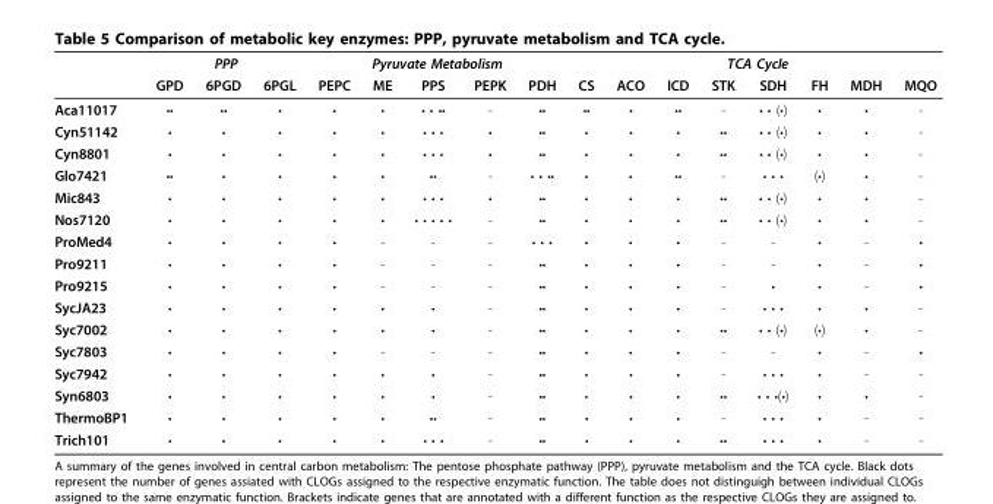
<table><thead><tr><td rowspan="2"></td><td colspan="3">PPP</td><td colspan="5">Pyruvate Metabolism</td><td colspan="8">TCA Cycle</td></tr><tr><td>GPD</td><td>6PGD</td><td>6PGL</td><td>PEPC</td><td>ME</td><td>PPS</td><td>PEPK</td><td>PDH</td><td>CS</td><td>ACO</td><td>ICD</td><td>STK</td><td>SDH</td><td>FH</td><td>MDH</td><td>MQO</td></tr></thead><tbody><tr><td>Aca11017</td><td>••</td><td>••</td><td>•</td><td>•</td><td>•</td><td>• • ••</td><td>-</td><td>••</td><td>••</td><td>•</td><td>••</td><td>-</td><td>• • (•)</td><td>•</td><td>•</td><td>-</td></tr><tr><td>Cyn51142</td><td>•</td><td>•</td><td>•</td><td>•</td><td>•</td><td>• • •</td><td>•</td><td>••</td><td>•</td><td>•</td><td>•</td><td>••</td><td>• • (•)</td><td>•</td><td>•</td><td>-</td></tr><tr><td>Cyn8801</td><td>•</td><td>•</td><td>•</td><td>•</td><td>•</td><td>• • •</td><td>•</td><td>••</td><td>•</td><td>•</td><td>•</td><td>••</td><td>• • (•)</td><td>•</td><td>•</td><td>-</td></tr><tr><td>Glo7421</td><td>••</td><td>•</td><td>•</td><td>•</td><td>•</td><td>••</td><td>-</td><td>• • ••</td><td>•</td><td>•</td><td>••</td><td>-</td><td>• • •</td><td>(•)</td><td>•</td><td>-</td></tr><tr><td>Mic843</td><td>•</td><td>•</td><td>•</td><td>•</td><td>•</td><td>• • •</td><td>•</td><td>••</td><td>•</td><td>•</td><td>•</td><td>••</td><td>• • (•)</td><td>•</td><td>•</td><td>-</td></tr><tr><td>Nos7120</td><td>•</td><td>•</td><td>•</td><td>•</td><td>•</td><td>• • • • •</td><td>-</td><td>••</td><td>•</td><td>•</td><td>•</td><td>••</td><td>• • (•)</td><td>•</td><td>•</td><td>-</td></tr><tr><td>ProMed4</td><td>•</td><td>•</td><td>•</td><td>•</td><td>-</td><td>-</td><td>-</td><td>• • •</td><td>•</td><td>•</td><td>•</td><td>-</td><td>-</td><td>•</td><td>-</td><td>•</td></tr><tr><td>Pro9211</td><td>•</td><td>•</td><td>•</td><td>•</td><td>-</td><td>-</td><td>-</td><td>••</td><td>•</td><td>•</td><td>•</td><td>-</td><td>-</td><td>•</td><td>-</td><td>•</td></tr><tr><td>Pro9215</td><td>•</td><td>•</td><td>•</td><td>•</td><td>-</td><td>-</td><td>-</td><td>••</td><td>•</td><td>•</td><td>•</td><td>-</td><td>•</td><td>•</td><td>-</td><td>•</td></tr><tr><td>SycJA23</td><td>•</td><td>•</td><td>•</td><td>•</td><td>•</td><td>•</td><td>-</td><td>••</td><td>•</td><td>•</td><td>•</td><td>-</td><td>• • •</td><td>•</td><td>•</td><td>-</td></tr><tr><td>Syc7002</td><td>•</td><td>•</td><td>•</td><td>•</td><td>•</td><td>•</td><td>-</td><td>••</td><td>•</td><td>•</td><td>•</td><td>••</td><td>• • (•)</td><td>(•)</td><td>•</td><td>-</td></tr><tr><td>Syc7803</td><td>•</td><td>•</td><td>•</td><td>•</td><td>-</td><td>-</td><td>-</td><td>••</td><td>•</td><td>•</td><td>•</td><td>-</td><td>-</td><td>•</td><td>-</td><td>•</td></tr><tr><td>Syc7942</td><td>•</td><td>•</td><td>•</td><td>•</td><td>•</td><td>•</td><td>-</td><td>••</td><td>•</td><td>•</td><td>•</td><td>-</td><td>• • •</td><td>•</td><td>-</td><td>-</td></tr><tr><td>Syn6803</td><td>•</td><td>•</td><td>•</td><td>•</td><td>•</td><td>•</td><td>-</td><td>••</td><td>•</td><td>•</td><td>•</td><td>••</td><td>• • •(•)</td><td>•</td><td>•</td><td>-</td></tr><tr><td>ThermoBP1</td><td>•</td><td>•</td><td>•</td><td>•</td><td>•</td><td>••</td><td>-</td><td>••</td><td>•</td><td>•</td><td>•</td><td>-</td><td>• • •</td><td>•</td><td>-</td><td>-</td></tr><tr><td>Trich101</td><td>•</td><td>•</td><td>•</td><td>•</td><td>•</td><td>• • •</td><td>-</td><td>••</td><td>•</td><td>•</td><td>•</td><td>••</td><td>• • •</td><td>•</td><td>-</td><td>-</td></tr></tbody></table>